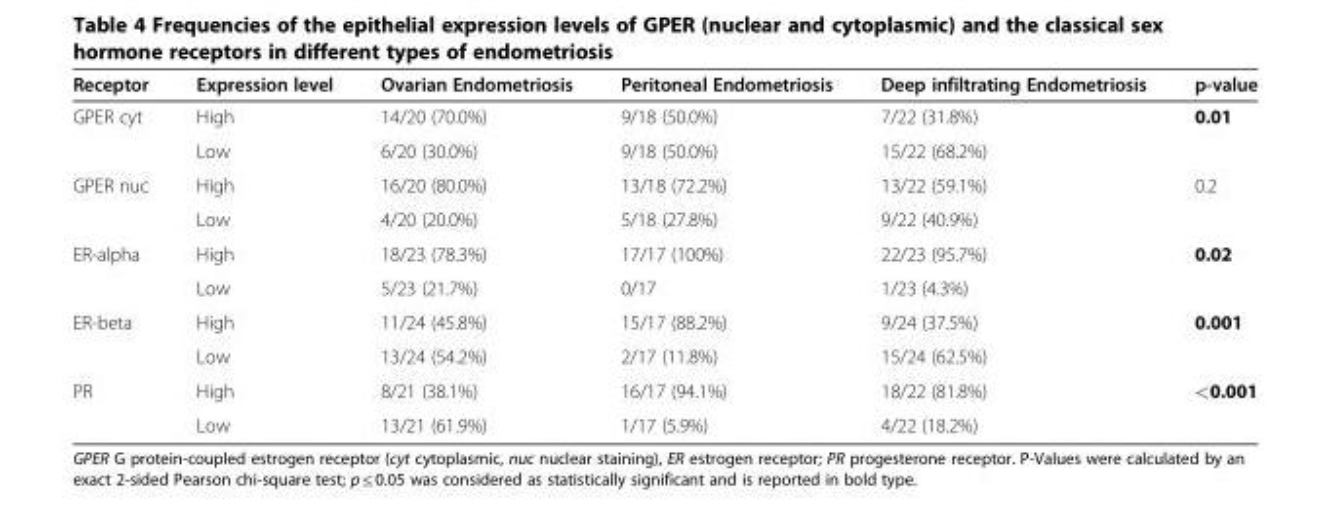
<table><thead><tr><td>Receptor</td><td>Expression level</td><td>Ovarian Endometriosis</td><td>Peritoneal Endometriosis</td><td>Deep infiltrating Endometriosis</td><td>p-value</td></tr></thead><tbody><tr><td rowspan="2">GPER cyt</td><td>High</td><td>14/20 (70.0%)</td><td>9/18 (50.0%)</td><td>7/22 (31.8%)</td><td>0.01</td></tr><tr><td>Low</td><td>6/20 (30.0%)</td><td>9/18 (50.0%)</td><td>15/22 (68.2%)</td><td></td></tr><tr><td rowspan="2">GPER nuc</td><td>High</td><td>16/20 (80.0%)</td><td>13/18 (72.2%)</td><td>13/22 (59.1%)</td><td>0.2</td></tr><tr><td>Low</td><td>4/20 (20.0%)</td><td>5/18 (27.8%)</td><td>9/22 (40.9%)</td><td></td></tr><tr><td rowspan="2">ER-alpha</td><td>High</td><td>18/23 (78.3%)</td><td>17/17 (100%)</td><td>22/23 (95.7%)</td><td>0.02</td></tr><tr><td>Low</td><td>5/23 (21.7%)</td><td>0/17</td><td>1/23 (4.3%)</td><td></td></tr><tr><td rowspan="2">ER-beta</td><td>High</td><td>11/24 (45.8%)</td><td>15/17 (88.2%)</td><td>9/24 (37.5%)</td><td>0.001</td></tr><tr><td>Low</td><td>13/24 (54.2%)</td><td>2/17 (11.8%)</td><td>15/24 (62.5%)</td><td></td></tr><tr><td rowspan="2">PR</td><td>High</td><td>8/21 (38.1%)</td><td>16/17 (94.1%)</td><td>18/22 (81.8%)</td><td>&lt;0.001</td></tr><tr><td>Low</td><td>13/21 (61.9%)</td><td>1/17 (5.9%)</td><td>4/22 (18.2%)</td><td></td></tr></tbody></table>